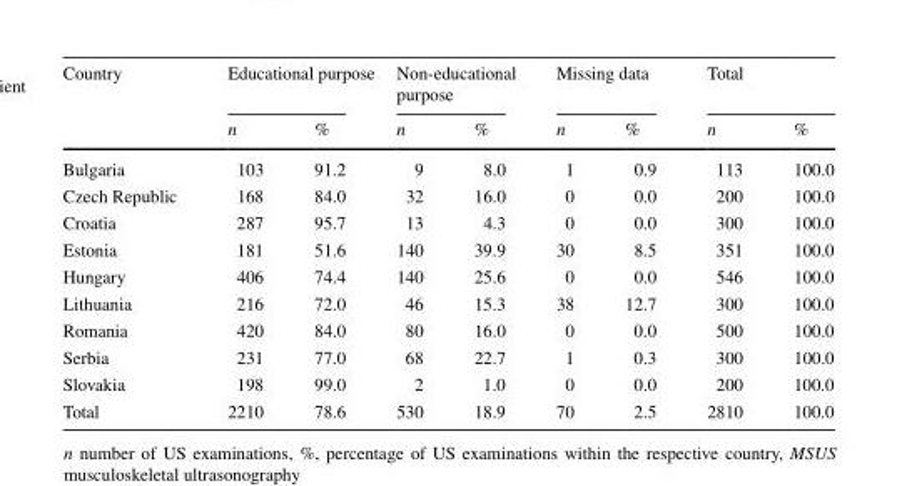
<table><thead><tr><td rowspan="2">Country</td><td colspan="2">Educational purpose</td><td colspan="2">Non-educational purpose</td><td colspan="2">Missing data</td><td colspan="2">Total</td></tr><tr><td>n</td><td>%</td><td>n</td><td>%</td><td>n</td><td>%</td><td>n</td><td>%</td></tr></thead><tbody><tr><td>Bulgaria</td><td>103</td><td>91.2</td><td>9</td><td>8.0</td><td>1</td><td>0.9</td><td>113</td><td>100.0</td></tr><tr><td>Czech Republic</td><td>168</td><td>84.0</td><td>32</td><td>16.0</td><td>0</td><td>0.0</td><td>200</td><td>100.0</td></tr><tr><td>Croatia</td><td>287</td><td>95.7</td><td>13</td><td>4.3</td><td>0</td><td>0.0</td><td>300</td><td>100.0</td></tr><tr><td>Estonia</td><td>181</td><td>51.6</td><td>140</td><td>39.9</td><td>30</td><td>8.5</td><td>351</td><td>100.0</td></tr><tr><td>Hungary</td><td>406</td><td>74.4</td><td>140</td><td>25.6</td><td>0</td><td>0.0</td><td>546</td><td>100.0</td></tr><tr><td>Lithuania</td><td>216</td><td>72.0</td><td>46</td><td>15.3</td><td>38</td><td>12.7</td><td>300</td><td>100.0</td></tr><tr><td>Romania</td><td>420</td><td>84.0</td><td>80</td><td>16.0</td><td>0</td><td>0.0</td><td>500</td><td>100.0</td></tr><tr><td>Serbia</td><td>231</td><td>77.0</td><td>68</td><td>22.7</td><td>1</td><td>0.3</td><td>300</td><td>100.0</td></tr><tr><td>Slovakia</td><td>198</td><td>99.0</td><td>2</td><td>1.0</td><td>0</td><td>0.0</td><td>200</td><td>100.0</td></tr><tr><td>Total</td><td>2210</td><td>78.6</td><td>530</td><td>18.9</td><td>70</td><td>2.5</td><td>2810</td><td>100.0</td></tr></tbody></table>